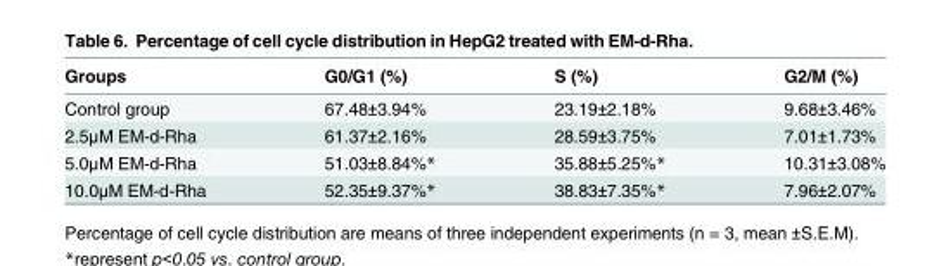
<table><thead><tr><td>Groups</td><td>G0/G1 (%)</td><td>S (%)</td><td>G2/M (%)</td></tr></thead><tbody><tr><td>Control group</td><td>67.48±3.94%</td><td>23.19±2.18%</td><td>9.68±3.46%</td></tr><tr><td>2.5μM EM-d-Rha</td><td>61.37±2.16%</td><td>28.59±3.75%</td><td>7.01±1.73%</td></tr><tr><td>5.0μM EM-d-Rha</td><td>51.03±8.84%*</td><td>35.88±5.25%*</td><td>10.31±3.08%</td></tr><tr><td>10.0μM EM-d-Rha</td><td>52.35±9.37%*</td><td>38.83±7.35%*</td><td>7.96±2.07%</td></tr></tbody></table>